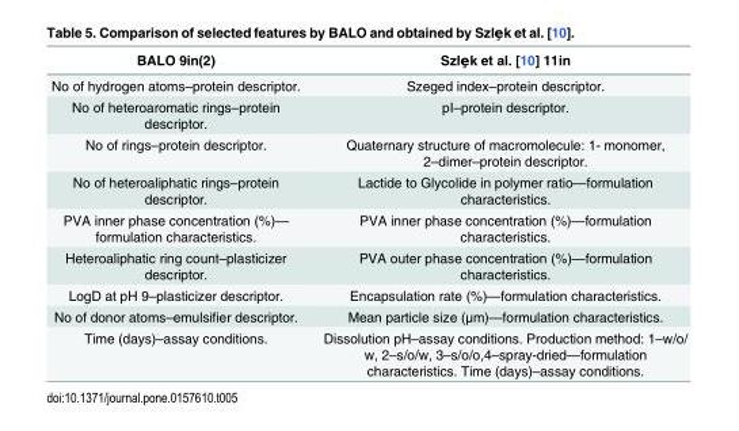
<table><thead><tr><td>BALO 9in(2)</td><td>Szlȩk et al. [10] 11in</td></tr></thead><tbody><tr><td>No of hydrogen atoms–protein descriptor.</td><td>Szeged index–protein descriptor.</td></tr><tr><td>No of heteroaromatic rings–protein descriptor.</td><td>pI–protein descriptor.</td></tr><tr><td>No of rings–protein descriptor.</td><td>Quaternary structure of macromolecule: 1- monomer, 2–dimer–protein descriptor.</td></tr><tr><td>No of heteroaliphatic rings–protein descriptor.</td><td>Lactide to Glycolide in polymer ratio—formulation characteristics.</td></tr><tr><td>PVA inner phase concentration (%)— formulation characteristics.</td><td>PVA inner phase concentration (%)—formulation characteristics.</td></tr><tr><td>Heteroaliphatic ring count–plasticizer descriptor.</td><td>PVA outer phase concentration (%)—formulation characteristics.</td></tr><tr><td>LogD at pH 9–plasticizer descriptor.</td><td>Encapsulation rate (%)—formulation characteristics.</td></tr><tr><td>No of donor atoms–emulsifier descriptor.</td><td>Mean particle size (μm)—formulation characteristics.</td></tr><tr><td>Time (days)–assay conditions.</td><td>Dissolution pH–assay conditions. Production method: 1–w/o/ w, 2–s/o/w, 3–s/o/o,4–spray-dried—formulation characteristics. Time (days)–assay conditions.</td></tr></tbody></table>